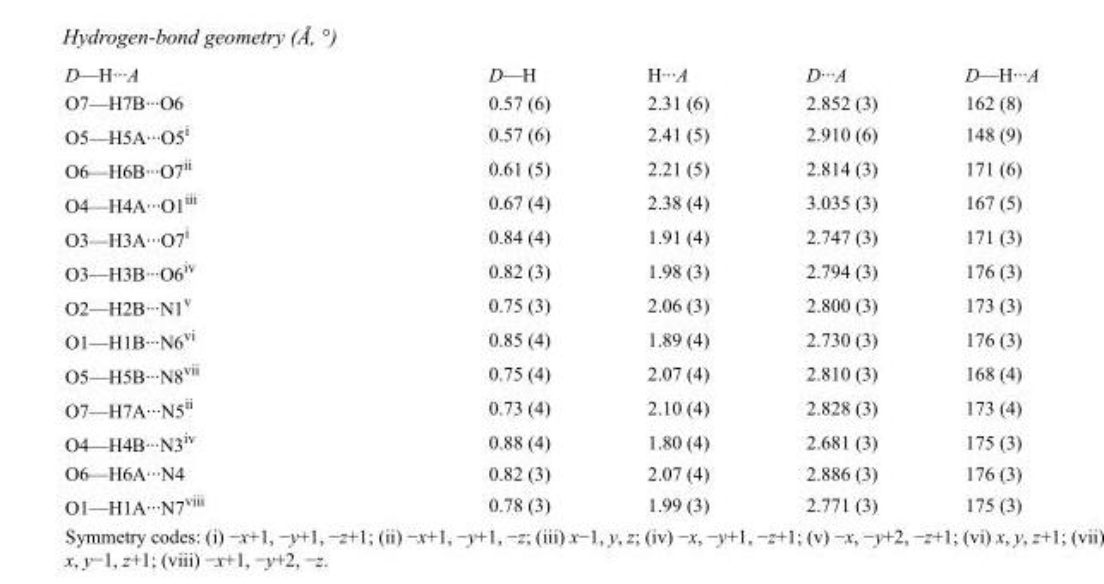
<table><tbody><tr><td>D—H···A</td><td>D—H</td><td>H···A</td><td>D···A</td><td>D—H···A</td></tr><tr><td>O7—H7B···O6</td><td>0.57 (6)</td><td>2.31 (6)</td><td>2.852 (3)</td><td>162 (8)</td></tr><tr><td>O5—H5A···O5<sup>i</sup></td><td>0.57 (6)</td><td>2.41 (5)</td><td>2.910 (6)</td><td>148 (9)</td></tr><tr><td>O6—H6B···O7<sup>ii</sup></td><td>0.61 (5)</td><td>2.21 (5)</td><td>2.814 (3)</td><td>171 (6)</td></tr><tr><td>O4—H4A···O1<sup>iii</sup></td><td>0.67 (4)</td><td>2.38 (4)</td><td>3.035 (3)</td><td>167 (5)</td></tr><tr><td>O3—H3A···O7<sup>i</sup></td><td>0.84 (4)</td><td>1.91 (4)</td><td>2.747 (3)</td><td>171 (3)</td></tr><tr><td>O3—H3B···O6<sup>iv</sup></td><td>0.82 (3)</td><td>1.98 (3)</td><td>2.794 (3)</td><td>176 (3)</td></tr><tr><td>O2—H2B···N1<sup>v</sup></td><td>0.75 (3)</td><td>2.06 (3)</td><td>2.800 (3)</td><td>173 (3)</td></tr><tr><td>O1—H1B···N6<sup>vi</sup></td><td>0.85 (4)</td><td>1.89 (4)</td><td>2.730 (3)</td><td>176 (3)</td></tr><tr><td>O5—H5B···N8<sup>vii</sup></td><td>0.75 (4)</td><td>2.07 (4)</td><td>2.810 (3)</td><td>168 (4)</td></tr><tr><td>O7—H7A···N5<sup>ii</sup></td><td>0.73 (4)</td><td>2.10 (4)</td><td>2.828 (3)</td><td>173 (4)</td></tr><tr><td>O4—H4B···N3<sup>iv</sup></td><td>0.88 (4)</td><td>1.80 (4)</td><td>2.681 (3)</td><td>175 (3)</td></tr><tr><td>O6—H6A···N4</td><td>0.82 (3)</td><td>2.07 (4)</td><td>2.886 (3)</td><td>176 (3)</td></tr><tr><td>O1—H1A···N7<sup>viii</sup></td><td>0.78 (3)</td><td>1.99 (3)</td><td>2.771 (3)</td><td>175 (3)</td></tr></tbody></table>